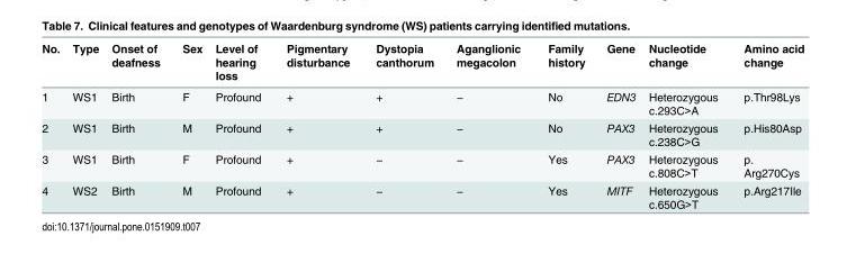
<table><thead><tr><td>No.</td><td>Type</td><td>Onset of deafness</td><td>Sex</td><td>Level of hearing loss</td><td>Pigmentary disturbance</td><td>Dystopia canthorum</td><td>Aganglionic megacolon</td><td>Family history</td><td>Gene</td><td>Nucleotide change</td><td>Amino acid change</td></tr></thead><tbody><tr><td>1</td><td>WS1</td><td>Birth</td><td>F</td><td>Profound</td><td>+</td><td>+</td><td>−</td><td>No</td><td>EDN3</td><td>Heterozygous c.293C&gt;A</td><td>p.Thr98Lys</td></tr><tr><td>2</td><td>WS1</td><td>Birth</td><td>M</td><td>Profound</td><td>+</td><td>+</td><td>−</td><td>No</td><td>PAX3</td><td>Heterozygous c.238C&gt;G</td><td>p.His80Asp</td></tr><tr><td>3</td><td>WS1</td><td>Birth</td><td>F</td><td>Profound</td><td>+</td><td>−</td><td>−</td><td>Yes</td><td>PAX3</td><td>Heterozygous c.808C&gt;T</td><td>p. Arg270Cys</td></tr><tr><td>4</td><td>WS2</td><td>Birth</td><td>M</td><td>Profound</td><td>+</td><td>−</td><td>−</td><td>Yes</td><td>MITF</td><td>Heterozygous c.650G&gt;T</td><td>p.Arg217Ile</td></tr></tbody></table>